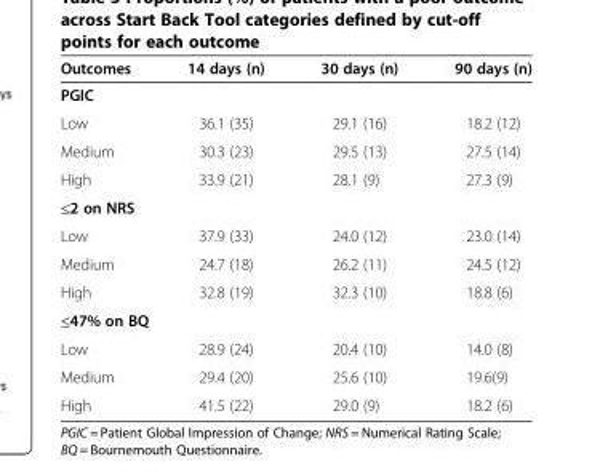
<table><thead><tr><td>Outcomes</td><td>14 days (n)</td><td>30 days (n)</td><td>90 days (n)</td></tr></thead><tbody><tr><td colspan="4">PGIC</td></tr><tr><td>Low</td><td>36.1 (35)</td><td>29.1 (16)</td><td>18.2 (12)</td></tr><tr><td>Medium</td><td>30.3 (23)</td><td>29.5 (13)</td><td>27.5 (14)</td></tr><tr><td>High</td><td>33.9 (21)</td><td>28.1 (9)</td><td>27.3 (9)</td></tr><tr><td colspan="4">≤2 on NRS</td></tr><tr><td>Low</td><td>37.9 (33)</td><td>24.0 (12)</td><td>23.0 (14)</td></tr><tr><td>Medium</td><td>24.7 (18)</td><td>26.2 (11)</td><td>24.5 (12)</td></tr><tr><td>High</td><td>32.8 (19)</td><td>32.3 (10)</td><td>18.8 (6)</td></tr><tr><td colspan="4">≤47% on BQ</td></tr><tr><td>Low</td><td>28.9 (24)</td><td>20.4 (10)</td><td>14.0 (8)</td></tr><tr><td>Medium</td><td>29.4 (20)</td><td>25.6 (10)</td><td>19.6(9)</td></tr><tr><td>High</td><td>41.5 (22)</td><td>29.0 (9)</td><td>18.2 (6)</td></tr></tbody></table>